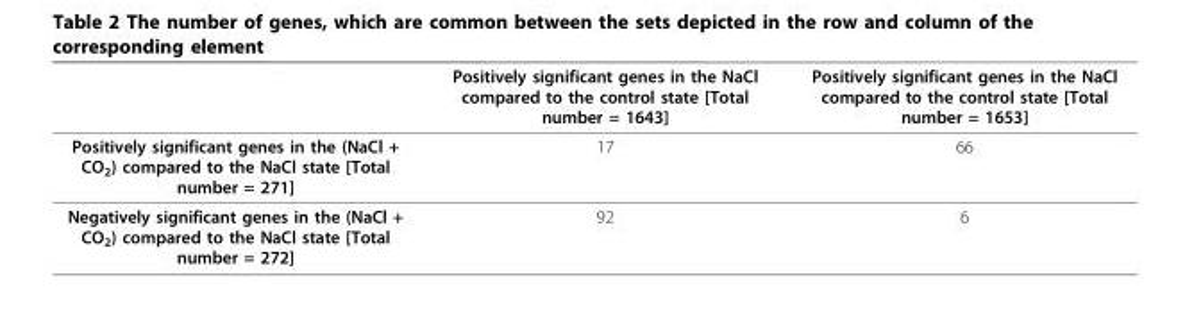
<table><thead><tr><td></td><td>Positively significant genes in the NaCl compared to the control state [Total number = 1643]</td><td>Positively significant genes in the NaCl compared to the control state [Total number = 1653]</td></tr></thead><tbody><tr><td>Positively significant genes in the (NaCl + CO<sub>2</sub>) compared to the NaCl state [Total number = 271]</td><td>17</td><td>66</td></tr><tr><td>Negatively significant genes in the (NaCl + CO<sub>2</sub>) compared to the NaCl state [Total number = 272]</td><td>92</td><td>6</td></tr></tbody></table>